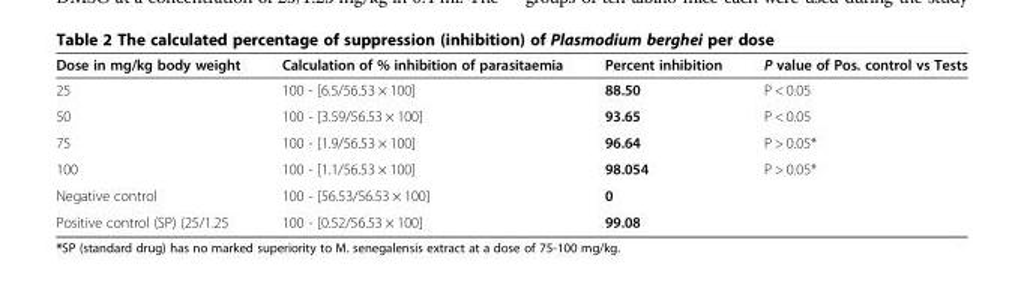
<table><thead><tr><td>Dose in mg/kg body weight</td><td>Calculation of % inhibition of parasitaemia</td><td>Percent inhibition</td><td>P value of Pos. control vs Tests</td></tr></thead><tbody><tr><td>25</td><td>100 - [6.5/56.53 × 100]</td><td>88.50</td><td>P &lt; 0.05</td></tr><tr><td>50</td><td>100 - [3.59/56.53 × 100]</td><td>93.65</td><td>P &lt; 0.05</td></tr><tr><td>75</td><td>100 - [1.9/56.53 × 100]</td><td>96.64</td><td>P &gt; 0.05*</td></tr><tr><td>100</td><td>100 - [1.1/56.53 × 100]</td><td>98.054</td><td>P &gt; 0.05*</td></tr><tr><td>Negative control</td><td>100 - [56.53/56.53 × 100]</td><td>0</td><td></td></tr><tr><td>Positive control (SP) (25/1.25</td><td>100 - [0.52/56.53 × 100]</td><td>99.08</td><td></td></tr></tbody></table>